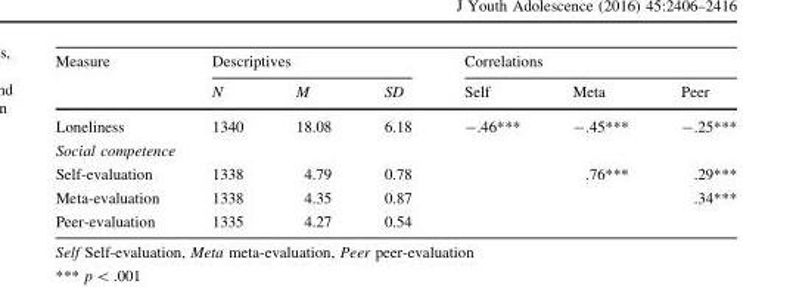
<table><thead><tr><td rowspan="2">Measure</td><td colspan="3">Descriptives</td><td colspan="3">Correlations</td></tr><tr><td>N</td><td>M</td><td>SD</td><td>Self</td><td>Meta</td><td>Peer</td></tr></thead><tbody><tr><td>Loneliness</td><td>1340</td><td>18.08</td><td>6.18</td><td>-.46***</td><td>-.45***</td><td>-.25***</td></tr><tr><td colspan="7">Social competence</td></tr><tr><td>Self-evaluation</td><td>1338</td><td>4.79</td><td>0.78</td><td></td><td>.76***</td><td>.29***</td></tr><tr><td>Meta-evaluation</td><td>1338</td><td>4.35</td><td>0.87</td><td></td><td></td><td>.34***</td></tr><tr><td>Peer-evaluation</td><td>1335</td><td>4.27</td><td>0.54</td><td></td><td></td><td></td></tr></tbody></table>